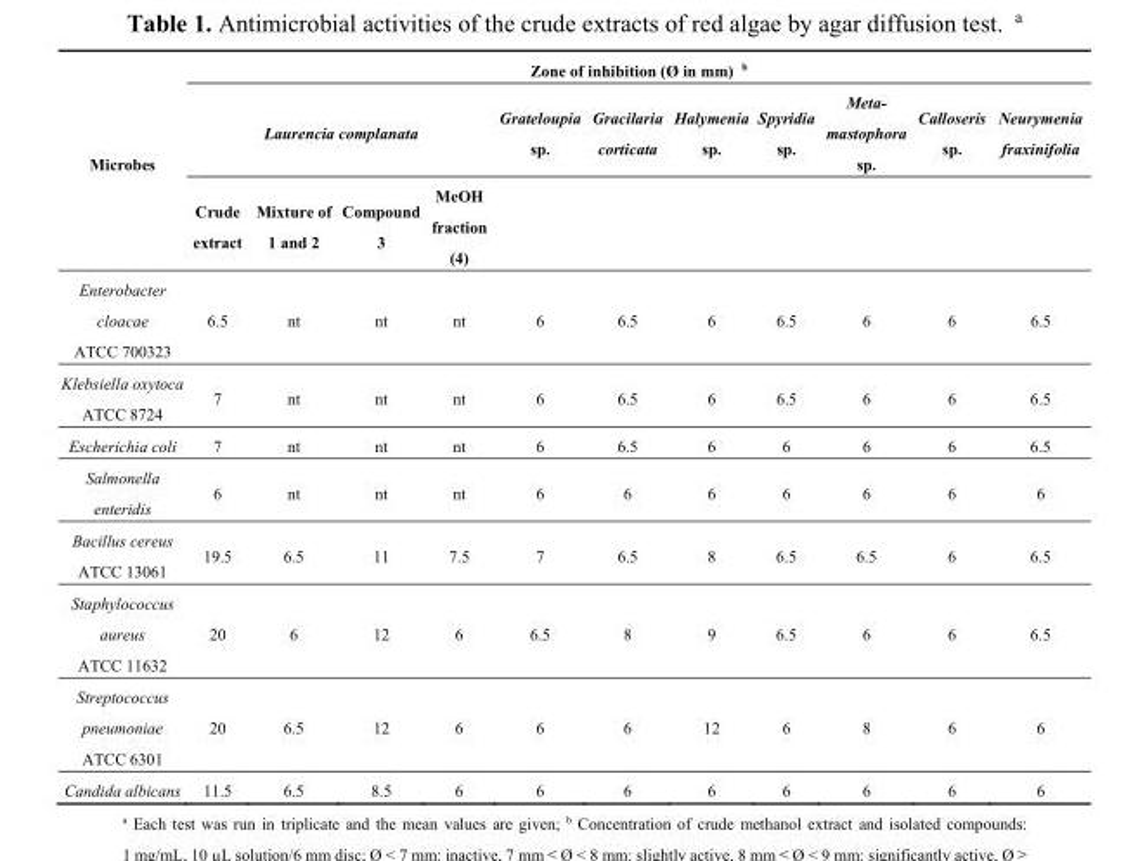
<table><thead><tr><td rowspan="3">Microbes</td><td colspan="11">Zone of inhibition (Ø in mm) <sup>b</sup></td></tr><tr><td colspan="4">Laurencia complanata</td><td rowspan="2">Grateloupia sp.</td><td rowspan="2">Gracilaria corticata</td><td rowspan="2">Halymenia sp.</td><td rowspan="2">Spyridia sp.</td><td rowspan="2">Meta- mastophora sp.</td><td rowspan="2">Calloseris sp.</td><td rowspan="2">Neurymenia fraxinifolia</td></tr><tr><td>Crude extract</td><td>Mixture of 1 and 2</td><td>Compound 3</td><td>MeOH fraction (4)</td></tr></thead><tbody><tr><td>Enterobacter cloacae ATCC 700323</td><td>6.5</td><td>nt</td><td>nt</td><td>nt</td><td>6</td><td>6.5</td><td>6</td><td>6.5</td><td>6</td><td>6</td><td>6.5</td></tr><tr><td>Klebsiella oxytoca ATCC 8724</td><td>7</td><td>nt</td><td>nt</td><td>nt</td><td>6</td><td>6.5</td><td>6</td><td>6.5</td><td>6</td><td>6</td><td>6.5</td></tr><tr><td>Escherichia coli</td><td>7</td><td>nt</td><td>nt</td><td>nt</td><td>6</td><td>6.5</td><td>6</td><td>6</td><td>6</td><td>6</td><td>6.5</td></tr><tr><td>Salmonella enteridis</td><td>6</td><td>nt</td><td>nt</td><td>nt</td><td>6</td><td>6</td><td>6</td><td>6</td><td>6</td><td>6</td><td>6</td></tr><tr><td>Bacillus cereus ATCC 13061</td><td>19.5</td><td>6.5</td><td>11</td><td>7.5</td><td>7</td><td>6.5</td><td>8</td><td>6.5</td><td>6.5</td><td>6</td><td>6.5</td></tr><tr><td>Staphylococcus aureus ATCC 11632</td><td>20</td><td>6</td><td>12</td><td>6</td><td>6.5</td><td>8</td><td>9</td><td>6.5</td><td>6</td><td>6</td><td>6.5</td></tr><tr><td>Streptococcus pneumoniae ATCC 6301</td><td>20</td><td>6.5</td><td>12</td><td>6</td><td>6</td><td>6</td><td>12</td><td>6</td><td>8</td><td>6</td><td>6</td></tr><tr><td>Candida albicans</td><td>11.5</td><td>6.5</td><td>8.5</td><td>6</td><td>6</td><td>6</td><td>6</td><td>6</td><td>6</td><td>6</td><td>6</td></tr></tbody></table>